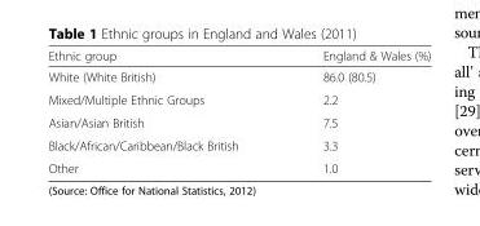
<table><thead><tr><td>Ethnic group</td><td>England &amp; Wales (%)</td></tr></thead><tbody><tr><td>White (White British)</td><td>86.0 (80.5)</td></tr><tr><td>Mixed/Multiple Ethnic Groups</td><td>2.2</td></tr><tr><td>Asian/Asian British</td><td>7.5</td></tr><tr><td>Black/African/Caribbean/Black British</td><td>3.3</td></tr><tr><td>Other</td><td>1.0</td></tr></tbody></table>